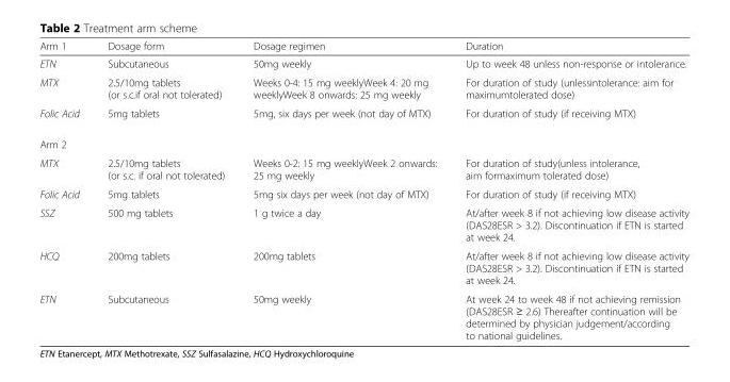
<table><thead><tr><td>Arm 1</td><td>Dosage form</td><td>Dosage regimen</td><td>Duration</td></tr></thead><tbody><tr><td>ETN</td><td>Subcutaneous</td><td>50mg weekly</td><td>Up to week 48 unless non-response or intolerance.</td></tr><tr><td>MTX</td><td>2.5/10mg tablets (or s.c.if oral not tolerated)</td><td>Weeks 0-4: 15 mg weeklyWeek 4: 20 mg weeklyWeek 8 onwards: 25 mg weekly</td><td>For duration of study (unlessintolerance: aim for maximumtolerated dose)</td></tr><tr><td>Folic Acid</td><td>5mg tablets</td><td>5mg, six days per week (not day of MTX)</td><td>For duration of study (if receiving MTX)</td></tr><tr><td colspan="4">Arm 2</td></tr><tr><td>MTX</td><td>2.5/10mg tablets (or s.c. if oral not tolerated)</td><td>Weeks 0-2: 15 mg weeklyWeek 2 onwards: 25 mg weekly</td><td>For duration of study(unless intolerance, aim formaximum tolerated dose)</td></tr><tr><td>Folic Acid</td><td>5mg tablets</td><td>5mg six days per week (not day of MTX)</td><td>For duration of study (if receiving MTX)</td></tr><tr><td>SSZ</td><td>500 mg tablets</td><td>1 g twice a day</td><td>At/after week 8 if not achieving low disease activity (DAS28ESR &gt; 3.2). Discontinuation if ETN is started at week 24.</td></tr><tr><td>HCQ</td><td>200mg tablets</td><td>200mg tablets</td><td>At/after week 8 if not achieving low disease activity (DAS28ESR &gt; 3.2). Discontinuation if ETN is started at week 24.</td></tr><tr><td>ETN</td><td>Subcutaneous</td><td>50mg weekly</td><td>At week 24 to week 48 if not achieving remission (DAS28ESR ≥ 2.6) Thereafter continuation will be determined by physician judgement/according to national guidelines.</td></tr></tbody></table>